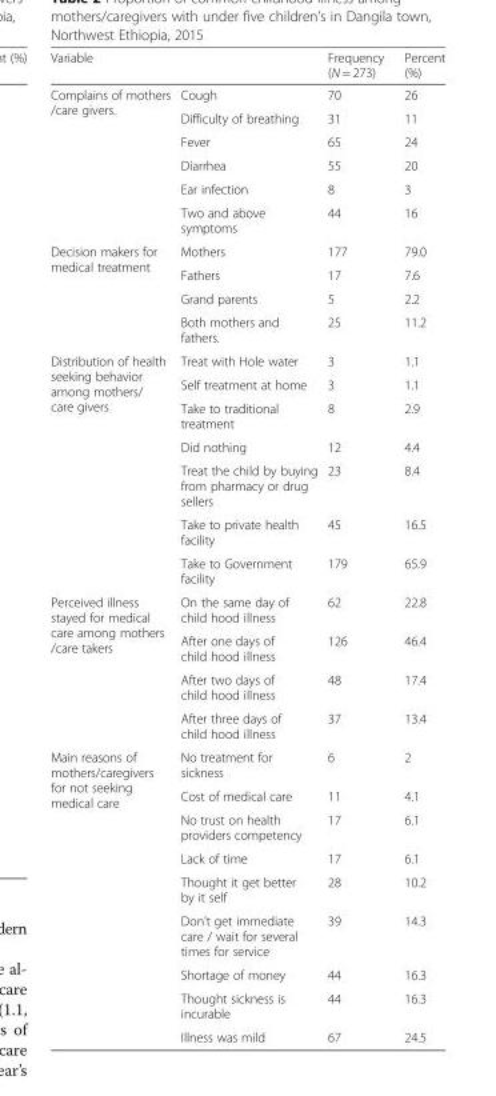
<table><thead><tr><td>Variable</td><td></td><td>Frequency (N = 273)</td><td>Percent (%)</td></tr></thead><tbody><tr><td rowspan="6">Complains of mothers /care givers.</td><td>Cough</td><td>70</td><td>26</td></tr><tr><td>Difficulty of breathing</td><td>31</td><td>11</td></tr><tr><td>Fever</td><td>65</td><td>24</td></tr><tr><td>Diarrhea</td><td>55</td><td>20</td></tr><tr><td>Ear infection</td><td>8</td><td>3</td></tr><tr><td>Two and above symptoms</td><td>44</td><td>16</td></tr><tr><td rowspan="4">Decision makers for medical treatment</td><td>Mothers</td><td>177</td><td>79.0</td></tr><tr><td>Fathers</td><td>17</td><td>7.6</td></tr><tr><td>Grand parents</td><td>5</td><td>2.2</td></tr><tr><td>Both mothers and fathers.</td><td>25</td><td>11.2</td></tr><tr><td rowspan="7">Distribution of health seeking behavior among mothers/ care givers</td><td>Treat with Hole water</td><td>3</td><td>1.1</td></tr><tr><td>Self treatment at home</td><td>3</td><td>1.1</td></tr><tr><td>Take to traditional treatment</td><td>8</td><td>2.9</td></tr><tr><td>Did nothing</td><td>12</td><td>4.4</td></tr><tr><td>Treat the child by buying from pharmacy or drug sellers</td><td>23</td><td>8.4</td></tr><tr><td>Take to private health facility</td><td>45</td><td>16.5</td></tr><tr><td>Take to Government facility</td><td>179</td><td>65.9</td></tr><tr><td rowspan="4">Perceived illness stayed for medical care among mothers /care takers</td><td>On the same day of child hood illness</td><td>62</td><td>22.8</td></tr><tr><td>After one days of child hood illness</td><td>126</td><td>46.4</td></tr><tr><td>After two days of child hood illness</td><td>48</td><td>17.4</td></tr><tr><td>After three days of child hood illness</td><td>37</td><td>13.4</td></tr><tr><td rowspan="9">Main reasons of mothers/caregivers for not seeking medical care</td><td>No treatment for sickness</td><td>6</td><td>2</td></tr><tr><td>Cost of medical care</td><td>11</td><td>4.1</td></tr><tr><td>No trust on health providers competency</td><td>17</td><td>6.1</td></tr><tr><td>Lack of time</td><td>17</td><td>6.1</td></tr><tr><td>Thought it get better by it self</td><td>28</td><td>10.2</td></tr><tr><td>Don’t get immediate care / wait for several times for service</td><td>39</td><td>14.3</td></tr><tr><td>Shortage of money</td><td>44</td><td>16.3</td></tr><tr><td>Thought sickness is incurable</td><td>44</td><td>16.3</td></tr><tr><td>Illness was mild</td><td>67</td><td>24.5</td></tr></tbody></table>